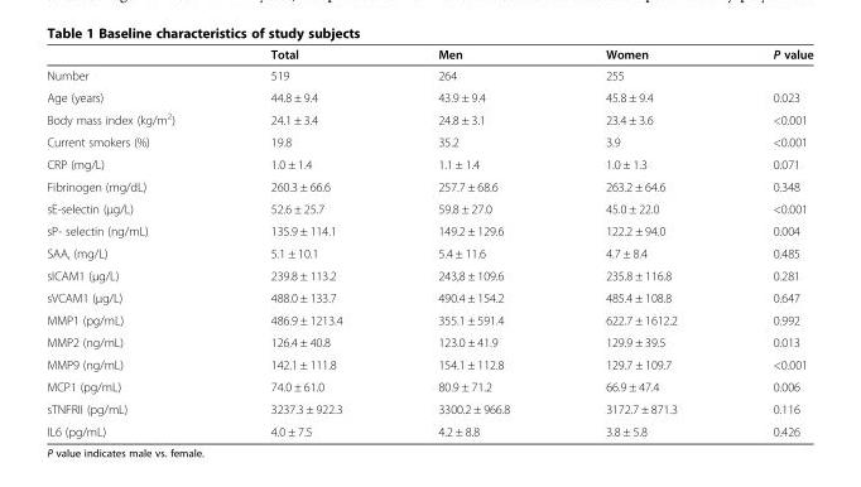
<table><thead><tr><td></td><td>Total</td><td>Men</td><td>Women</td><td>P value</td></tr></thead><tbody><tr><td>Number</td><td>519</td><td>264</td><td>255</td><td></td></tr><tr><td>Age (years)</td><td>44.8 ± 9.4</td><td>43.9 ± 9.4</td><td>45.8 ± 9.4</td><td>0.023</td></tr><tr><td>Body mass index (kg/m<sup>2</sup>)</td><td>24.1 ± 3.4</td><td>24.8 ± 3.1</td><td>23.4 ± 3.6</td><td>&lt;0.001</td></tr><tr><td>Current smokers (%)</td><td>19.8</td><td>35.2</td><td>3.9</td><td>&lt;0.001</td></tr><tr><td>CRP (mg/L)</td><td>1.0 ± 1.4</td><td>1.1 ± 1.4</td><td>1.0 ± 1.3</td><td>0.071</td></tr><tr><td>Fibrinogen (mg/dL)</td><td>260.3 ± 66.6</td><td>257.7 ± 68.6</td><td>263.2 ± 64.6</td><td>0.348</td></tr><tr><td>sE-selectin (μg/L)</td><td>52.6 ± 25.7</td><td>59.8 ± 27.0</td><td>45.0 ± 22.0</td><td>&lt;0.001</td></tr><tr><td>sP- selectin (ng/mL)</td><td>135.9 ± 114.1</td><td>149.2 ± 129.6</td><td>122.2 ± 94.0</td><td>0.004</td></tr><tr><td>SAA, (mg/L)</td><td>5.1 ± 10.1</td><td>5.4 ± 11.6</td><td>4.7 ± 8.4</td><td>0.485</td></tr><tr><td>sICAM1 (μg/L)</td><td>239.8 ± 113.2</td><td>243,8 ± 109.6</td><td>235.8 ± 116.8</td><td>0.281</td></tr><tr><td>sVCAM1 (μg/L)</td><td>488.0 ± 133.7</td><td>490.4 ± 154.2</td><td>485.4 ± 108.8</td><td>0.647</td></tr><tr><td>MMP1 (pg/mL)</td><td>486.9 ± 1213.4</td><td>355.1 ± 591.4</td><td>622.7 ± 1612.2</td><td>0.992</td></tr><tr><td>MMP2 (ng/mL)</td><td>126.4 ± 40.8</td><td>123.0 ± 41.9</td><td>129.9 ± 39.5</td><td>0.013</td></tr><tr><td>MMP9 (ng/mL)</td><td>142.1 ± 111.8</td><td>154.1 ± 112.8</td><td>129.7 ± 109.7</td><td>&lt;0.001</td></tr><tr><td>MCP1 (pg/mL)</td><td>74.0 ± 61.0</td><td>80.9 ± 71.2</td><td>66.9 ± 47.4</td><td>0.006</td></tr><tr><td>sTNFRII (pg/mL)</td><td>3237.3 ± 922.3</td><td>3300.2 ± 966.8</td><td>3172.7 ± 871.3</td><td>0.116</td></tr><tr><td>IL6 (pg/mL)</td><td>4.0 ± 7.5</td><td>4.2 ± 8.8</td><td>3.8 ± 5.8</td><td>0.426</td></tr></tbody></table>